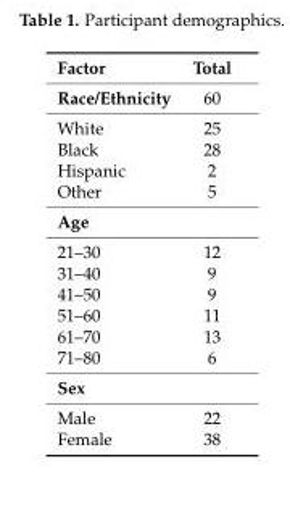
<table><thead><tr><td>Factor</td><td>Total</td></tr></thead><tbody><tr><td>Race/Ethnicity</td><td>60</td></tr><tr><td>White</td><td>25</td></tr><tr><td>Black</td><td>28</td></tr><tr><td>Hispanic</td><td>2</td></tr><tr><td>Other</td><td>5</td></tr><tr><td colspan="2">Age</td></tr><tr><td>21–30</td><td>12</td></tr><tr><td>31–40</td><td>9</td></tr><tr><td>41–50</td><td>9</td></tr><tr><td>51–60</td><td>11</td></tr><tr><td>61–70</td><td>13</td></tr><tr><td>71–80</td><td>6</td></tr><tr><td colspan="2">Sex</td></tr><tr><td>Male</td><td>22</td></tr><tr><td>Female</td><td>38</td></tr></tbody></table>